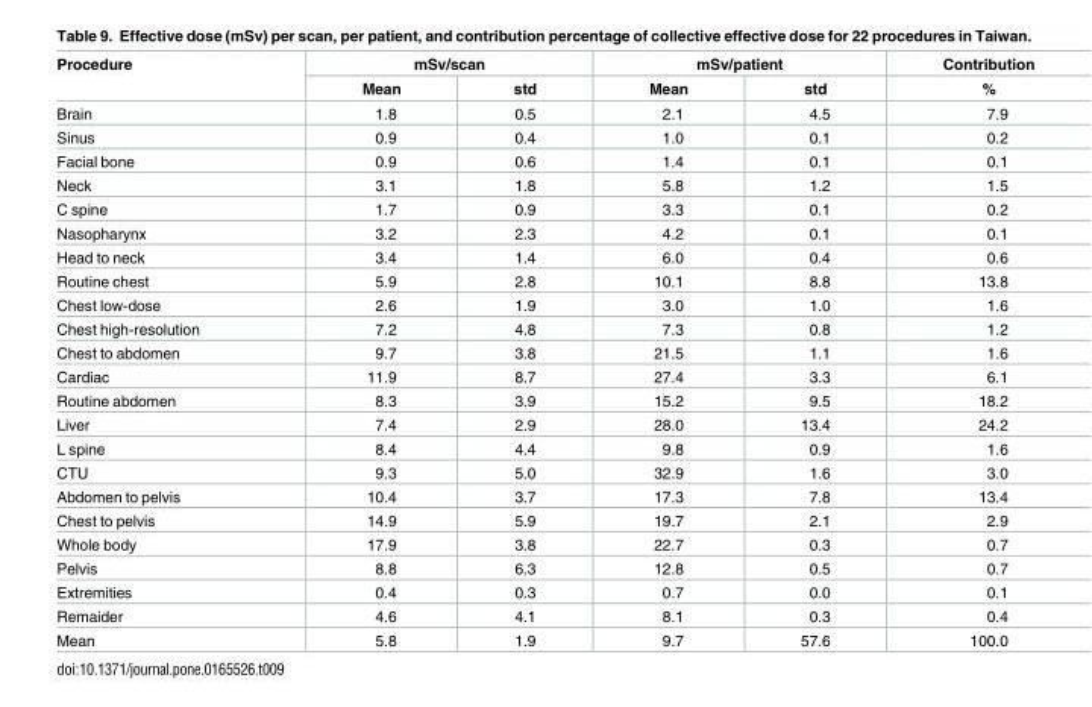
<table><thead><tr><td rowspan="2">Procedure</td><td colspan="2">mSv/scan</td><td colspan="2">mSv/patient</td><td rowspan="2">Contribution %</td></tr><tr><td>Mean</td><td>std</td><td>Mean</td><td>std</td></tr></thead><tbody><tr><td>Brain</td><td>1.8</td><td>0.5</td><td>2.1</td><td>4.5</td><td>7.9</td></tr><tr><td>Sinus</td><td>0.9</td><td>0.4</td><td>1.0</td><td>0.1</td><td>0.2</td></tr><tr><td>Facial bone</td><td>0.9</td><td>0.6</td><td>1.4</td><td>0.1</td><td>0.1</td></tr><tr><td>Neck</td><td>3.1</td><td>1.8</td><td>5.8</td><td>1.2</td><td>1.5</td></tr><tr><td>C spine</td><td>1.7</td><td>0.9</td><td>3.3</td><td>0.1</td><td>0.2</td></tr><tr><td>Nasopharynx</td><td>3.2</td><td>2.3</td><td>4.2</td><td>0.1</td><td>0.1</td></tr><tr><td>Head to neck</td><td>3.4</td><td>1.4</td><td>6.0</td><td>0.4</td><td>0.6</td></tr><tr><td>Routine chest</td><td>5.9</td><td>2.8</td><td>10.1</td><td>8.8</td><td>13.8</td></tr><tr><td>Chest low-dose</td><td>2.6</td><td>1.9</td><td>3.0</td><td>1.0</td><td>1.6</td></tr><tr><td>Chest high-resolution</td><td>7.2</td><td>4.8</td><td>7.3</td><td>0.8</td><td>1.2</td></tr><tr><td>Chest to abdomen</td><td>9.7</td><td>3.8</td><td>21.5</td><td>1.1</td><td>1.6</td></tr><tr><td>Cardiac</td><td>11.9</td><td>8.7</td><td>27.4</td><td>3.3</td><td>6.1</td></tr><tr><td>Routine abdomen</td><td>8.3</td><td>3.9</td><td>15.2</td><td>9.5</td><td>18.2</td></tr><tr><td>Liver</td><td>7.4</td><td>2.9</td><td>28.0</td><td>13.4</td><td>24.2</td></tr><tr><td>L spine</td><td>8.4</td><td>4.4</td><td>9.8</td><td>0.9</td><td>1.6</td></tr><tr><td>CTU</td><td>9.3</td><td>5.0</td><td>32.9</td><td>1.6</td><td>3.0</td></tr><tr><td>Abdomen to pelvis</td><td>10.4</td><td>3.7</td><td>17.3</td><td>7.8</td><td>13.4</td></tr><tr><td>Chest to pelvis</td><td>14.9</td><td>5.9</td><td>19.7</td><td>2.1</td><td>2.9</td></tr><tr><td>Whole body</td><td>17.9</td><td>3.8</td><td>22.7</td><td>0.3</td><td>0.7</td></tr><tr><td>Pelvis</td><td>8.8</td><td>6.3</td><td>12.8</td><td>0.5</td><td>0.7</td></tr><tr><td>Extremities</td><td>0.4</td><td>0.3</td><td>0.7</td><td>0.0</td><td>0.1</td></tr><tr><td>Remaider</td><td>4.6</td><td>4.1</td><td>8.1</td><td>0.3</td><td>0.4</td></tr><tr><td>Mean</td><td>5.8</td><td>1.9</td><td>9.7</td><td>57.6</td><td>100.0</td></tr></tbody></table>